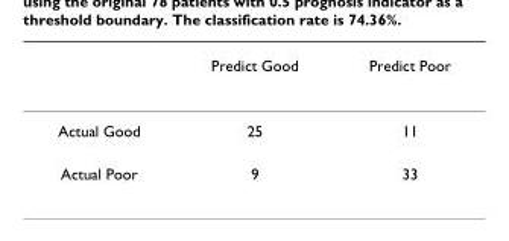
<table><thead><tr><td></td><td>Predict Good</td><td>Predict Poor</td></tr></thead><tbody><tr><td>Actual Good</td><td>25</td><td>11</td></tr><tr><td>Actual Poor</td><td>9</td><td>33</td></tr></tbody></table>